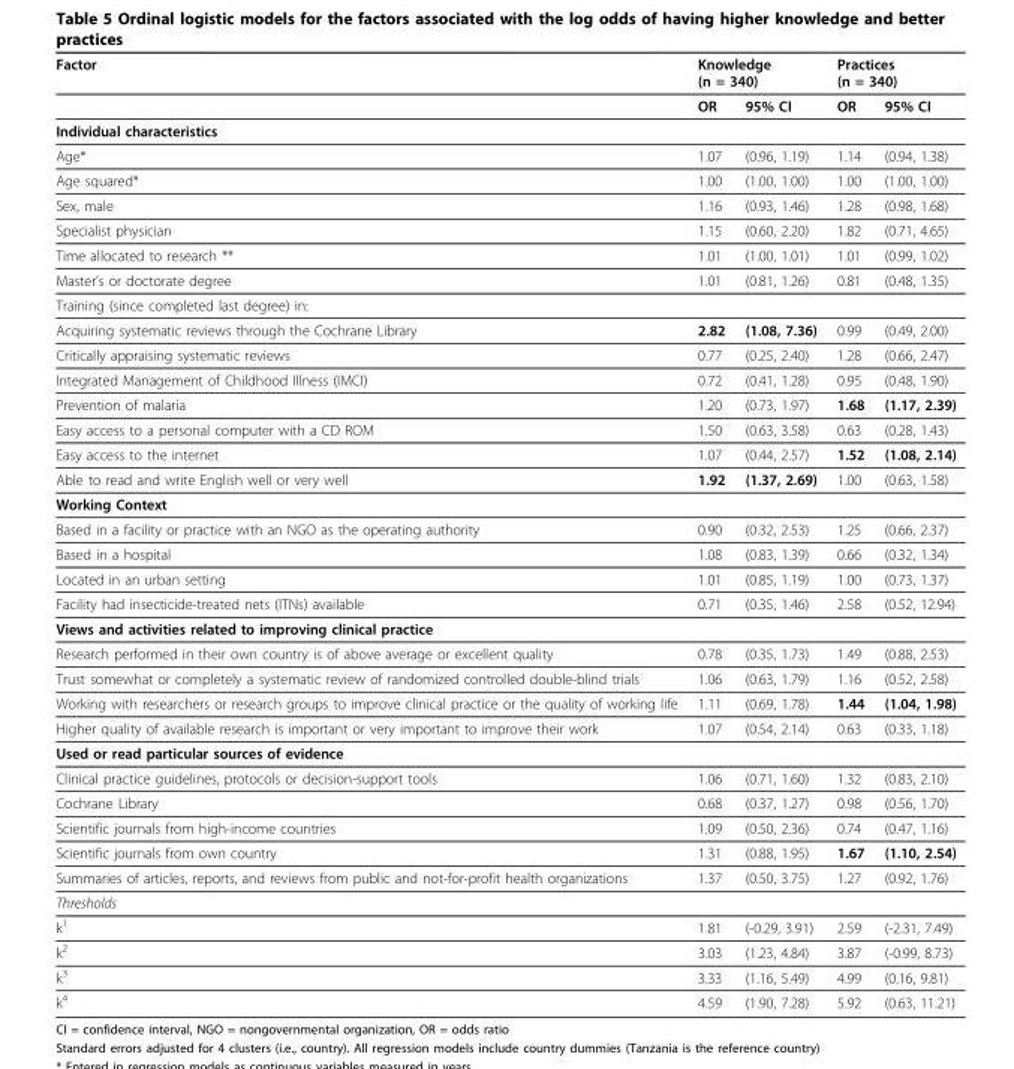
<table><thead><tr><td rowspan="2">Factor</td><td colspan="2">Knowledge (n = 340)</td><td colspan="2">Practices (n = 340)</td></tr><tr><td>OR</td><td>95% CI</td><td>OR</td><td>95% CI</td></tr></thead><tbody><tr><td colspan="5">Individual characteristics</td></tr><tr><td>Age*</td><td>1.07</td><td>(0.96, 1.19)</td><td>1.14</td><td>(0.94, 1.38)</td></tr><tr><td>Age squared*</td><td>1.00</td><td>(1.00, 1.00)</td><td>1.00</td><td>(1.00, 1.00)</td></tr><tr><td>Sex, male</td><td>1.16</td><td>(0.93, 1.46)</td><td>1.28</td><td>(0.98, 1.68)</td></tr><tr><td>Specialist physician</td><td>1.15</td><td>(0.60, 2.20)</td><td>1.82</td><td>(0.71, 4.65)</td></tr><tr><td>Time allocated to research **</td><td>1.01</td><td>(1.00, 1.01)</td><td>1.01</td><td>(0.99, 1.02)</td></tr><tr><td>Master’s or doctorate degree</td><td>1.01</td><td>(0.81, 1.26)</td><td>0.81</td><td>(0.48, 1.35)</td></tr><tr><td colspan="5">Training (since completed last degree) in:</td></tr><tr><td>Acquiring systematic reviews through the Cochrane Library</td><td>2.82</td><td>(1.08, 7.36)</td><td>0.99</td><td>(0.49, 2.00)</td></tr><tr><td>Critically appraising systematic reviews</td><td>0.77</td><td>(0.25, 2.40)</td><td>1.28</td><td>(0.66, 2.47)</td></tr><tr><td>Integrated Management of Childhood Illness (IMCI)</td><td>0.72</td><td>(0.41, 1.28)</td><td>0.95</td><td>(0.48, 1.90)</td></tr><tr><td>Prevention of malaria</td><td>1.20</td><td>(0.73, 1.97)</td><td>1.68</td><td>(1.17, 2.39)</td></tr><tr><td>Easy access to a personal computer with a CD ROM</td><td>1.50</td><td>(0.63, 3.58)</td><td>0.63</td><td>(0.28, 1.43)</td></tr><tr><td>Easy access to the internet</td><td>1.07</td><td>(0.44, 2.57)</td><td>1.52</td><td>(1.08, 2.14)</td></tr><tr><td>Able to read and write English well or very well</td><td>1.92</td><td>(1.37, 2.69)</td><td>1.00</td><td>(0.63, 1.58)</td></tr><tr><td colspan="5">Working Context</td></tr><tr><td>Based in a facility or practice with an NGO as the operating authority</td><td>0.90</td><td>(0.32, 2.53)</td><td>1.25</td><td>(0.66, 2.37)</td></tr><tr><td>Based in a hospital</td><td>1.08</td><td>(0.83, 1.39)</td><td>0.66</td><td>(0.32, 1.34)</td></tr><tr><td>Located in an urban setting</td><td>1.01</td><td>(0.85, 1.19)</td><td>1.00</td><td>(0.73, 1.37)</td></tr><tr><td>Facility had insecticide-treated nets (ITNs) available</td><td>0.71</td><td>(0.35, 1.46)</td><td>2.58</td><td>(0.52, 12.94)</td></tr><tr><td colspan="5">Views and activities related to improving clinical practice</td></tr><tr><td>Research performed in their own country is of above average or excellent quality</td><td>0.78</td><td>(0.35, 1.73)</td><td>1.49</td><td>(0.88, 2.53)</td></tr><tr><td>Trust somewhat or completely a systematic review of randomized controlled double-blind trials</td><td>1.06</td><td>(0.63, 1.79)</td><td>1.16</td><td>(0.52, 2.58)</td></tr><tr><td>Working with researchers or research groups to improve clinical practice or the quality of working life</td><td>1.11</td><td>(0.69, 1.78)</td><td>1.44</td><td>(1.04, 1.98)</td></tr><tr><td>Higher quality of available research is important or very important to improve their work</td><td>1.07</td><td>(0.54, 2.14)</td><td>0.63</td><td>(0.33, 1.18)</td></tr><tr><td colspan="5">Used or read particular sources of evidence</td></tr><tr><td>Clinical practice guidelines, protocols or decision-support tools</td><td>1.06</td><td>(0.71, 1.60)</td><td>1.32</td><td>(0.83, 2.10)</td></tr><tr><td>Cochrane Library</td><td>0.68</td><td>(0.37, 1.27)</td><td>0.98</td><td>(0.56, 1.70)</td></tr><tr><td>Scientific journals from high-income countries</td><td>1.09</td><td>(0.50, 2.36)</td><td>0.74</td><td>(0.47, 1.16)</td></tr><tr><td>Scientific journals from own country</td><td>1.31</td><td>(0.88, 1.95)</td><td>1.67</td><td>(1.10, 2.54)</td></tr><tr><td>Summaries of articles, reports, and reviews from public and not-for-profit health organizations</td><td>1.37</td><td>(0.50, 3.75)</td><td>1.27</td><td>(0.92, 1.76)</td></tr><tr><td colspan="5">Thresholds</td></tr><tr><td>k<sup>1</sup></td><td>1.81</td><td>(-0.29, 3.91)</td><td>2.59</td><td>(-2.31, 7.49)</td></tr><tr><td>k<sup>2</sup></td><td>3.03</td><td>(1.23, 4.84)</td><td>3.87</td><td>(-0.99, 8.73)</td></tr><tr><td>k<sup>3</sup></td><td>3.33</td><td>(1.16, 5.49)</td><td>4.99</td><td>(0.16, 9.81)</td></tr><tr><td>k<sup>4</sup></td><td>4.59</td><td>(1.90, 7.28)</td><td>5.92</td><td>(0.63, 11.21)</td></tr></tbody></table>